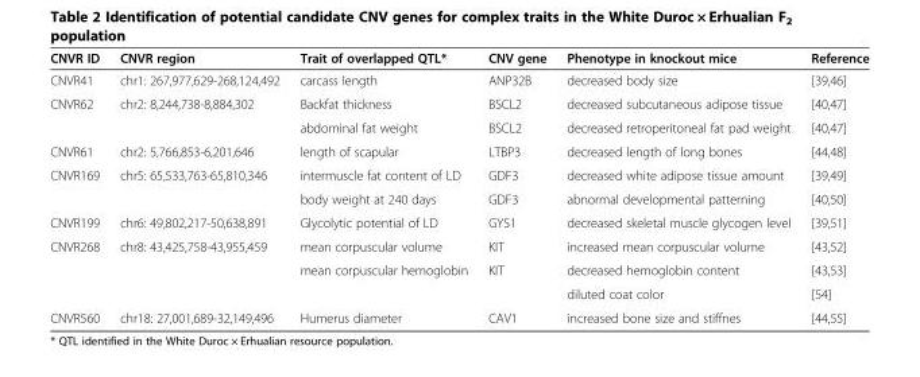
<table><thead><tr><td>CNVR ID</td><td>CNVR region</td><td>Trait of overlapped QTL*</td><td>CNV gene</td><td>Phenotype in knockout mice</td><td>Reference</td></tr></thead><tbody><tr><td>CNVR41</td><td>chr1: 267,977,629-268,124,492</td><td>carcass length</td><td>ANP32B</td><td>decreased body size</td><td>[39,46]</td></tr><tr><td rowspan="2">CNVR62</td><td>chr2: 8,244,738-8,884,302</td><td>Backfat thickness</td><td>BSCL2</td><td>decreased subcutaneous adipose tissue</td><td>[40,47]</td></tr><tr><td></td><td>abdominal fat weight</td><td>BSCL2</td><td>decreased retroperitoneal fat pad weight</td><td>[40,47]</td></tr><tr><td>CNVR61</td><td>chr2: 5,766,853-6,201,646</td><td>length of scapular</td><td>LTBP3</td><td>decreased length of long bones</td><td>[44,48]</td></tr><tr><td rowspan="2">CNVR169</td><td>chr5: 65,533,763-65,810,346</td><td>intermuscle fat content of LD</td><td>GDF3</td><td>decreased white adipose tissue amount</td><td>[39,49]</td></tr><tr><td></td><td>body weight at 240 days</td><td>GDF3</td><td>abnormal developmental patterning</td><td>[40,50]</td></tr><tr><td>CNVR199</td><td>chr6: 49,802,217-50,638,891</td><td>Glycolytic potential of LD</td><td>GYS1</td><td>decreased skeletal muscle glycogen level</td><td>[39,51]</td></tr><tr><td rowspan="3">CNVR268</td><td>chr8: 43,425,758-43,955,459</td><td>mean corpuscular volume</td><td>KIT</td><td>increased mean corpuscular volume</td><td>[43,52]</td></tr><tr><td></td><td>mean corpuscular hemoglobin</td><td>KIT</td><td>decreased hemoglobin content</td><td>[43,53]</td></tr><tr><td></td><td></td><td></td><td>diluted coat color</td><td>[54]</td></tr><tr><td>CNVR560</td><td>chr18: 27,001,689-32,149,496</td><td>Humerus diameter</td><td>CAV1</td><td>increased bone size and stiffnes</td><td>[44,55]</td></tr></tbody></table>